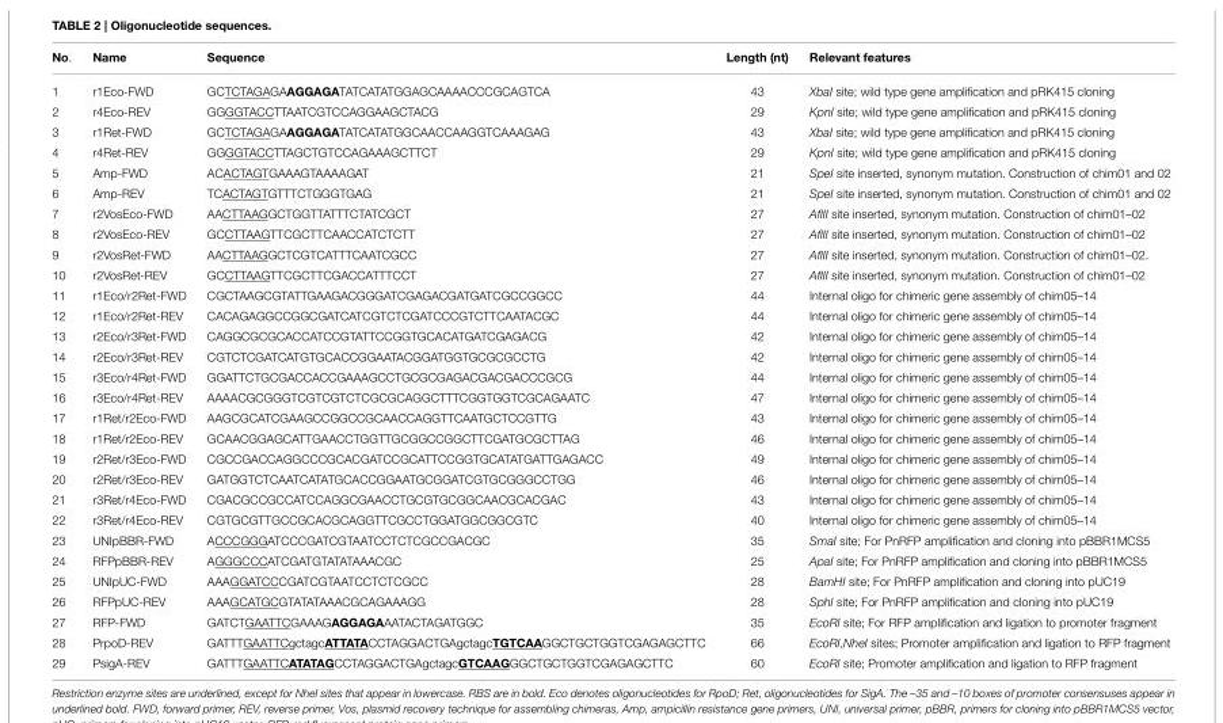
<table><thead><tr><td>No.</td><td>Name</td><td>Sequence</td><td>Length (nt)</td><td>Relevant features</td></tr></thead><tbody><tr><td>1</td><td>r1Eco-FWD</td><td>GCTCTAGAGAAGGAGATATCATATGGAGCAAAACCCGCAGTCA</td><td>43</td><td>XbaI site; wild type gene amplification and pRK415 cloning</td></tr><tr><td>2</td><td>r4Eco-REV</td><td>GGGGTACCTTAATCGTCCAGGAAGCTACG</td><td>29</td><td>KpnI site; wild type gene amplification and pRK415 cloning</td></tr><tr><td>3</td><td>r1Ret-FWD</td><td>GCTCTAGAGAAGGAGATATCATATGGCAACCAAGGTCAAAGAG</td><td>43</td><td>XbaI site; wild type gene amplification and pRK415 cloning</td></tr><tr><td>4</td><td>r4Ret-REV</td><td>GGGGTACCTTAGCTGTCCAGAAAGCTTCT</td><td>29</td><td>KpnI site; wild type gene amplification and pRK415 cloning</td></tr><tr><td>5</td><td>Amp-FWD</td><td>ACACTAGTGAAAGTAAAAGAT</td><td>21</td><td>SpeI site inserted, synonym mutation. Construction of chim01 and 02</td></tr><tr><td>6</td><td>Amp-REV</td><td>TCACTAGTGTTTCTGGGTGAG</td><td>21</td><td>SpeI site inserted, synonym mutation. Construction of chim01 and 02</td></tr><tr><td>7</td><td>r2VosEco-FWD</td><td>AACTTAAGGCTGGTTATTTCTATCGCT</td><td>27</td><td>AflII site inserted, synonym mutation. Construction of chim01–02</td></tr><tr><td>8</td><td>r2VosEco-REV</td><td>GCCTTAAGTTCGCTTCAACCATCTCTT</td><td>27</td><td>AflII site inserted, synonym mutation. Construction of chim01–02</td></tr><tr><td>9</td><td>r2VosRet-FWD</td><td>AACTTAAGGCTCGTCATTTCAATCGCC</td><td>27</td><td>AflII site inserted, synonym mutation. Construction of chim01–02.</td></tr><tr><td>10</td><td>r2VosRet-REV</td><td>GCCTTAAGTTCGCTTCGACCATTTCCT</td><td>27</td><td>AflII site inserted, synonym mutation. Construction of chim01–02</td></tr><tr><td>11</td><td>r1Eco/r2Ret-FWD</td><td>CGCTAAGCGTATTGAAGACGGGATCGAGACGATGATCGCCGGCC</td><td>44</td><td>Internal oligo for chimeric gene assembly of chim05–14</td></tr><tr><td>12</td><td>r1Eco/r2Ret-REV</td><td>CACAGAGGCCGGCGATCATCGTCTCGATCCCGTCTTCAATACGC</td><td>44</td><td>Internal oligo for chimeric gene assembly of chim05–14</td></tr><tr><td>13</td><td>r2Eco/r3Ret-FWD</td><td>CAGGCGCGCACCATCCGTATTCCGGTGCACATGATCGAGACG</td><td>42</td><td>Internal oligo for chimeric gene assembly of chim05–14</td></tr><tr><td>14</td><td>r2Eco/r3Ret-REV</td><td>CGTCTCGATCATGTGCACCGGAATACGGATGGTGCGCGCCTG</td><td>42</td><td>Internal oligo for chimeric gene assembly of chim05–14</td></tr><tr><td>15</td><td>r3Eco/r4Ret-FWD</td><td>GGATTCTGCGACCACCGAAAGCCTGCGCGAGACGACGACCCGCG</td><td>44</td><td>Internal oligo for chimeric gene assembly of chim05–14</td></tr><tr><td>16</td><td>r3Eco/r4Ret-REV</td><td>AAAACGCGGGTCGTCGTCTCGCGCAGGCTTTCGGTGGTCGCAGAATC</td><td>47</td><td>Internal oligo for chimeric gene assembly of chim05–14</td></tr><tr><td>17</td><td>r1Ret/r2Eco-FWD</td><td>AAGCGCATCGAAGCCGGCCGCAACCAGGTTCAATGCTCCGTTG</td><td>43</td><td>Internal oligo for chimeric gene assembly of chim05–14</td></tr><tr><td>18</td><td>r1Ret/r2Eco-REV</td><td>GCAACGGAGCATTGAACCTGGTTGCGGCCGGCTTCGATGCGCTTAG</td><td>46</td><td>Internal oligo for chimeric gene assembly of chim05–14</td></tr><tr><td>19</td><td>r2Ret/r3Eco-FWD</td><td>CGCCGACCAGGCCCGCACGATCCGCATTCCGGTGCATATGATTGAGACC</td><td>49</td><td>Internal oligo for chimeric gene assembly of chim05–14</td></tr><tr><td>20</td><td>r2Ret/r3Eco-REV</td><td>GATGGTCTCAATCATATGCACCGGAATGCGGATCGTGCGGGCCTGG</td><td>46</td><td>Internal oligo for chimeric gene assembly of chim05–14</td></tr><tr><td>21</td><td>r3Ret/r4Eco-FWD</td><td>CGACGCCGCCATCCAGGCGAACCTGCGTGCGGCAACGCACGAC</td><td>43</td><td>Internal oligo for chimeric gene assembly of chim05–14</td></tr><tr><td>22</td><td>r3Ret/r4Eco-REV</td><td>CGTGCGTTGCCGCACGCAGGTTCGCCTGGATGGCGGCGTC</td><td>40</td><td>Internal oligo for chimeric gene assembly of chim05–14</td></tr><tr><td>23</td><td>UNIpBBR-FWD</td><td>ACCCGGGATCCCGATCGTAATCCTCTCGCCGACGC</td><td>35</td><td>SmaI site; For PnRFP amplification and cloning into pBBR1MCS5</td></tr><tr><td>24</td><td>RFPpBBR-REV</td><td>AGGGCCCATCGATGTATATAAACGC</td><td>25</td><td>ApaI site; For PnRFP amplification and cloning into pBBR1MCS5</td></tr><tr><td>25</td><td>UNIpUC-FWD</td><td>AAAGGATCCCGATCGTAATCCTCTCGCC</td><td>28</td><td>BamHI site; For PnRFP amplification and cloning into pUC19</td></tr><tr><td>26</td><td>RFPpUC-REV</td><td>AAAGCATGCGTATATAAACGCAGAAAGG</td><td>28</td><td>SphI site; For PnRFP amplification and cloning into pUC19</td></tr><tr><td>27</td><td>RFP-FWD</td><td>GATCTGAATTCGAAAGAGGAGAAATACTAGATGGC</td><td>35</td><td>EcoRI site; For RFP amplification and ligation to promoter fragment</td></tr><tr><td>28</td><td>PrpoD-REV</td><td>GATTTGAATTCgctagcATTATACCTAGGACTGAgctagcTGTCAAGGCTGCTGGTCGAGAGCTTC</td><td>66</td><td>EcoRI,NheI sites; Promoter amplification and ligation to RFP fragment</td></tr><tr><td>29</td><td>PsigA-REV</td><td>GATTTGAATTCATATAGCCTAGGACTGAgctagcGTCAAGGGCTGCTGGTCGAGAGCTTC</td><td>60</td><td>EcoRI site; Promoter amplification and ligation to RFP fragment</td></tr></tbody></table>